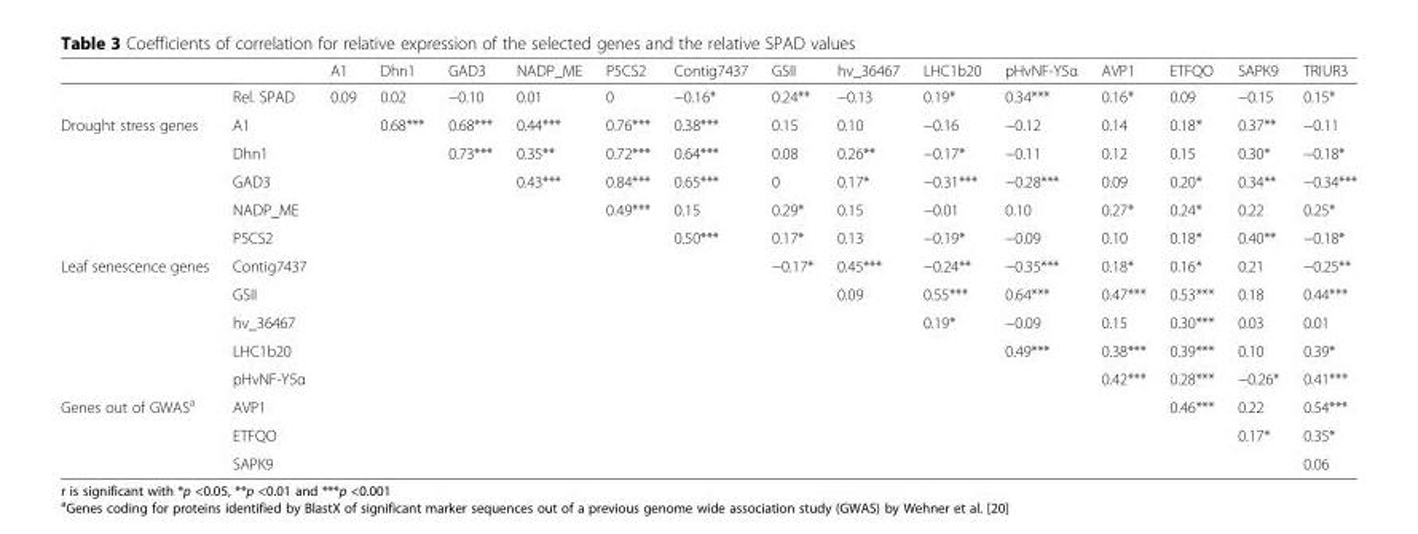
<table><thead><tr><td></td><td></td><td>A1</td><td>Dhn1</td><td>GAD3</td><td>NADP_ME</td><td>P5CS2</td><td>Contig7437</td><td>GSII</td><td>hv_36467</td><td>LHC1b20</td><td>pHvNF-Y5α</td><td>AVP1</td><td>ETFQO</td><td>SAPK9</td><td>TRIUR3</td></tr></thead><tbody><tr><td></td><td>Rel. SPAD</td><td>0.09</td><td>0.02</td><td>−0.10</td><td>0.01</td><td>0</td><td>−0.16*</td><td>0.24**</td><td>−0.13</td><td>0.19*</td><td>0.34***</td><td>0.16*</td><td>0.09</td><td>−0.15</td><td>0.15*</td></tr><tr><td rowspan="5">Drought stress genes</td><td>A1</td><td></td><td>0.68***</td><td>0.68***</td><td>0.44***</td><td>0.76***</td><td>0.38***</td><td>0.15</td><td>0.10</td><td>−0.16</td><td>−0.12</td><td>0.14</td><td>0.18*</td><td>0.37**</td><td>−0.11</td></tr><tr><td>Dhn1</td><td></td><td></td><td>0.73***</td><td>0.35**</td><td>0.72***</td><td>0.64***</td><td>0.08</td><td>0.26**</td><td>−0.17*</td><td>−0.11</td><td>0.12</td><td>0.15</td><td>0.30*</td><td>−0.18*</td></tr><tr><td>GAD3</td><td></td><td></td><td></td><td>0.43***</td><td>0.84***</td><td>0.65***</td><td>0</td><td>0.17*</td><td>−0.31***</td><td>−0.28***</td><td>0.09</td><td>0.20*</td><td>0.34**</td><td>−0.34***</td></tr><tr><td>NADP_ME</td><td></td><td></td><td></td><td></td><td>0.49***</td><td>0.15</td><td>0.29*</td><td>0.15</td><td>−0.01</td><td>0.10</td><td>0.27*</td><td>0.24*</td><td>0.22</td><td>0.25*</td></tr><tr><td>P5CS2</td><td></td><td></td><td></td><td></td><td></td><td>0.50***</td><td>0.17*</td><td>0.13</td><td>−0.19*</td><td>−0.09</td><td>0.10</td><td>0.18*</td><td>0.40**</td><td>−0.18*</td></tr><tr><td rowspan="5">Leaf senescence genes</td><td>Contig7437</td><td></td><td></td><td></td><td></td><td></td><td></td><td>−0.17*</td><td>0.45***</td><td>−0.24**</td><td>−0.35***</td><td>0.18*</td><td>0.16*</td><td>0.21</td><td>−0.25**</td></tr><tr><td>GSII</td><td></td><td></td><td></td><td></td><td></td><td></td><td></td><td>0.09</td><td>0.55***</td><td>0.64***</td><td>0.47***</td><td>0.53***</td><td>0.18</td><td>0.44***</td></tr><tr><td>hv_36467</td><td></td><td></td><td></td><td></td><td></td><td></td><td></td><td></td><td>0.19*</td><td>−0.09</td><td>0.15</td><td>0.30***</td><td>0.03</td><td>0.01</td></tr><tr><td>LHC1b20</td><td></td><td></td><td></td><td></td><td></td><td></td><td></td><td></td><td></td><td>0.49***</td><td>0.38***</td><td>0.39***</td><td>0.10</td><td>0.39*</td></tr><tr><td>pHvNF-Y5α</td><td></td><td></td><td></td><td></td><td></td><td></td><td></td><td></td><td></td><td></td><td>0.42***</td><td>0.28***</td><td>−0.26*</td><td>0.41***</td></tr><tr><td rowspan="3">Genes out of GWAS<sup>a</sup></td><td>AVP1</td><td></td><td></td><td></td><td></td><td></td><td></td><td></td><td></td><td></td><td></td><td></td><td>0.46***</td><td>0.22</td><td>0.54***</td></tr><tr><td>ETFQO</td><td></td><td></td><td></td><td></td><td></td><td></td><td></td><td></td><td></td><td></td><td></td><td></td><td>0.17*</td><td>0.35*</td></tr><tr><td>SAPK9</td><td></td><td></td><td></td><td></td><td></td><td></td><td></td><td></td><td></td><td></td><td></td><td></td><td></td><td>0.06</td></tr></tbody></table>